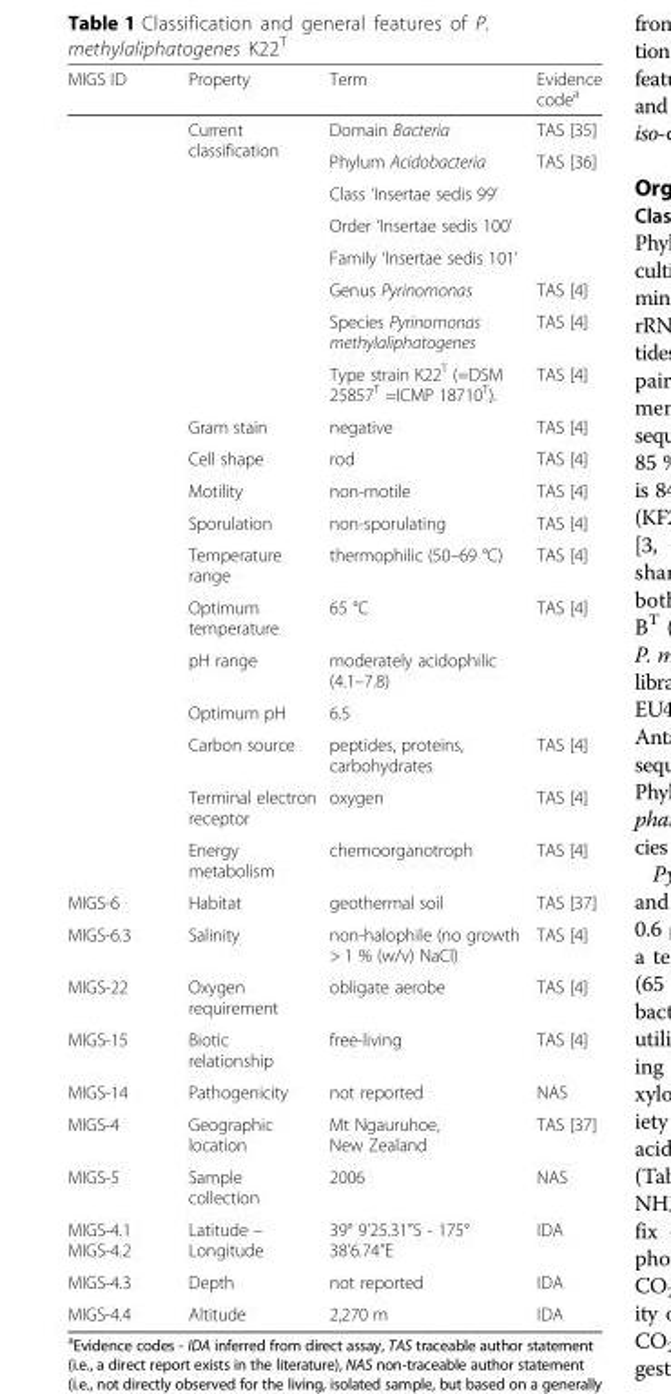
<table><thead><tr><td>MIGS ID</td><td>Property</td><td>Term</td><td>Evidence code<sup>a</sup></td></tr></thead><tbody><tr><td rowspan="8"></td><td rowspan="8">Current classification</td><td>Domain Bacteria</td><td>TAS [35]</td></tr><tr><td>Phylum Acidobacteria</td><td>TAS [36]</td></tr><tr><td>Class ‘Insertae sedis 99’</td><td></td></tr><tr><td>Order ‘Insertae sedis 100’</td><td></td></tr><tr><td>Family ‘Insertae sedis 101’</td><td></td></tr><tr><td>Genus Pyrinomonas</td><td>TAS [4]</td></tr><tr><td>Species Pyrinomonas methylaliphatogenes</td><td>TAS [4]</td></tr><tr><td>Type strain K22<sup>T</sup> (=DSM 25857<sup>T</sup> =ICMP 18710<sup>T</sup>).</td><td>TAS [4]</td></tr><tr><td></td><td>Gram stain</td><td>negative</td><td>TAS [4]</td></tr><tr><td></td><td>Cell shape</td><td>rod</td><td>TAS [4]</td></tr><tr><td></td><td>Motility</td><td>non-motile</td><td>TAS [4]</td></tr><tr><td></td><td>Sporulation</td><td>non-sporulating</td><td>TAS [4]</td></tr><tr><td></td><td>Temperature range</td><td>thermophilic (50–69 °C)</td><td>TAS [4]</td></tr><tr><td></td><td>Optimum temperature</td><td>65 °C</td><td>TAS [4]</td></tr><tr><td></td><td>pH range</td><td>moderately acidophilic (4.1–7.8)</td><td></td></tr><tr><td></td><td>Optimum pH</td><td>6.5</td><td></td></tr><tr><td></td><td>Carbon source</td><td>peptides, proteins, carbohydrates</td><td>TAS [4]</td></tr><tr><td></td><td>Terminal electron receptor</td><td>oxygen</td><td>TAS [4]</td></tr><tr><td></td><td>Energy metabolism</td><td>chemoorganotroph</td><td>TAS [4]</td></tr><tr><td>MIGS-6</td><td>Habitat</td><td>geothermal soil</td><td>TAS [37]</td></tr><tr><td>MIGS-6.3</td><td>Salinity</td><td>non-halophile (no growth &gt; 1 % (w/v) NaCl)</td><td>TAS [4]</td></tr><tr><td>MIGS-22</td><td>Oxygen requirement</td><td>obligate aerobe</td><td>TAS [4]</td></tr><tr><td>MIGS-15</td><td>Biotic relationship</td><td>free-living</td><td>TAS [4]</td></tr><tr><td>MIGS-14</td><td>Pathogenicity</td><td>not reported</td><td>NAS</td></tr><tr><td>MIGS-4</td><td>Geographic location</td><td>Mt Ngauruhoe, New Zealand</td><td>TAS [37]</td></tr><tr><td>MIGS-5</td><td>Sample collection</td><td>2006</td><td>NAS</td></tr><tr><td>MIGS-4.1 MIGS-4.2</td><td>Latitude – Longitude</td><td>39° 9’25.31”S - 175° 38’6.74”E</td><td>IDA</td></tr><tr><td>MIGS-4.3</td><td>Depth</td><td>not reported</td><td>IDA</td></tr><tr><td>MIGS-4.4</td><td>Altitude</td><td>2,270 m</td><td>IDA</td></tr></tbody></table>